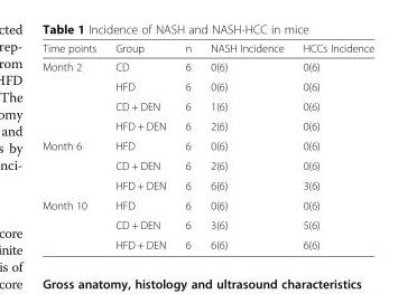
<table><thead><tr><td>Time points</td><td>Group</td><td>n</td><td>NASH Incidence</td><td>HCCs Incidence</td></tr></thead><tbody><tr><td rowspan="4">Month 2</td><td>CD</td><td>6</td><td>0(6)</td><td>0(6)</td></tr><tr><td>HFD</td><td>6</td><td>0(6)</td><td>0(6)</td></tr><tr><td>CD + DEN</td><td>6</td><td>1(6)</td><td>0(6)</td></tr><tr><td>HFD + DEN</td><td>6</td><td>2(6)</td><td>0(6)</td></tr><tr><td rowspan="3">Month 6</td><td>HFD</td><td>6</td><td>0(6)</td><td>0(6)</td></tr><tr><td>CD + DEN</td><td>6</td><td>2(6)</td><td>0(6)</td></tr><tr><td>HFD + DEN</td><td>6</td><td>6(6)</td><td>3(6)</td></tr><tr><td rowspan="3">Month 10</td><td>HFD</td><td>6</td><td>0(6)</td><td>0(6)</td></tr><tr><td>CD + DEN</td><td>6</td><td>3(6)</td><td>5(6)</td></tr><tr><td>HFD + DEN</td><td>6</td><td>6(6)</td><td>6(6)</td></tr></tbody></table>